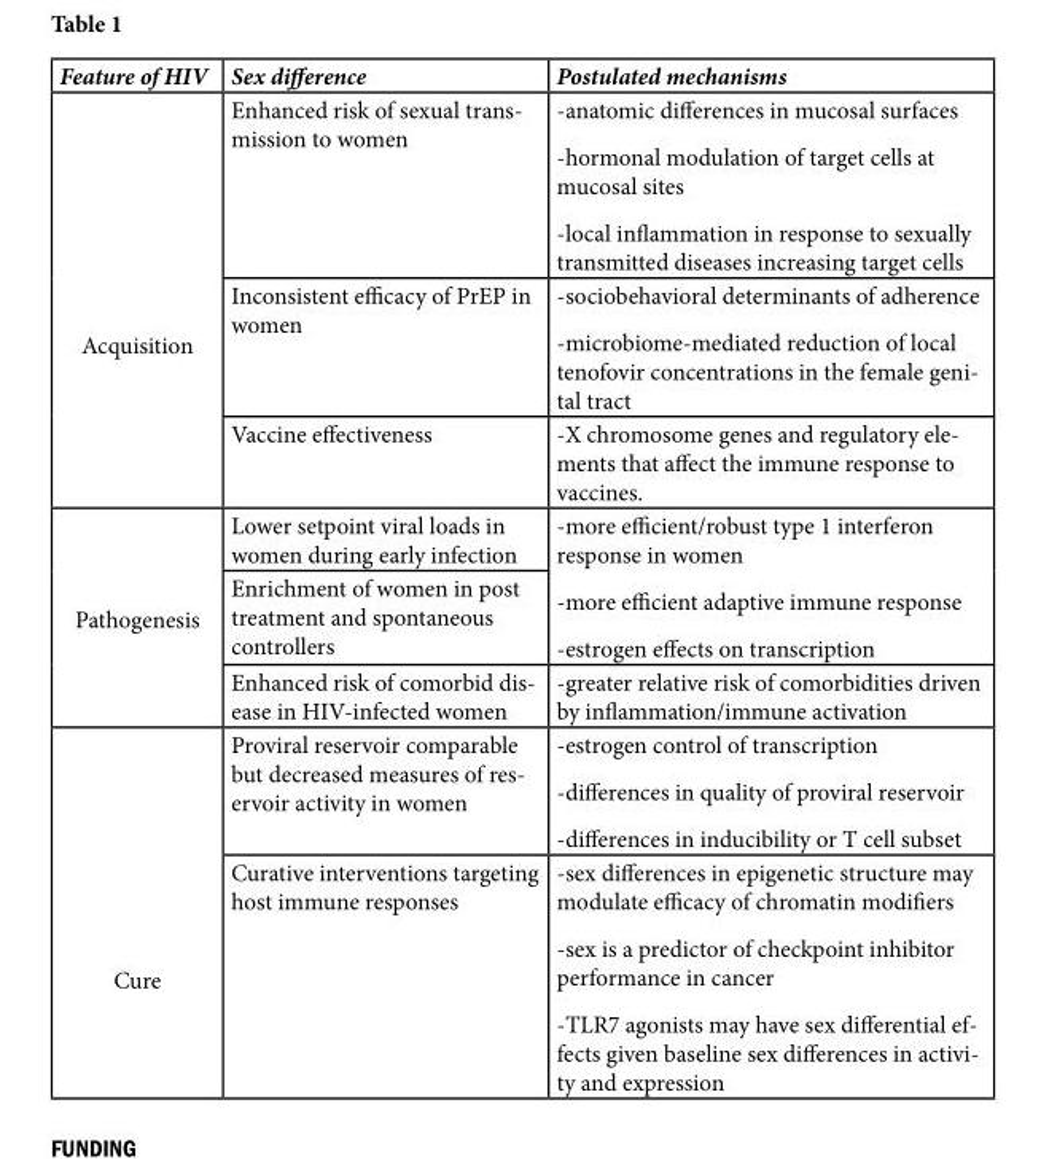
<table><thead><tr><td>Feature of HIV</td><td>Sex difference</td><td>Postulated mechanisms</td></tr></thead><tbody><tr><td rowspan="3">Acquisition</td><td>Enhanced risk of sexual trans- mission to women</td><td>-anatomic differences in mucosal surfaces -hormonal modulation of target cells at mucosal sites -local inflammation in response to sexually transmitted diseases increasing target cells</td></tr><tr><td>Inconsistent efficacy of PrEP in women</td><td>-sociobehavioral determinants of adherence -microbiome-mediated reduction of local tenofovir concentrations in the female geni- tal tract</td></tr><tr><td>Vaccine effectiveness</td><td>-X chromosome genes and regulatory ele- ments that affect the immune response to vaccines.</td></tr><tr><td rowspan="3">Pathogenesis</td><td>Lower setpoint viral loads in women during early infection</td><td rowspan="2">-more efficient/robust type 1 interferon response in women -more efficient adaptive immune response -estrogen effects on transcription</td></tr><tr><td>Enrichment of women in post treatment and spontaneous controllers</td></tr><tr><td>Enhanced risk of comorbid dis- ease in HIV-infected women</td><td>-greater relative risk of comorbidities driven by inflammation/immune activation</td></tr><tr><td rowspan="2">Cure</td><td>Proviral reservoir comparable but decreased measures of res- ervoir activity in women</td><td>-estrogen control of transcription -differences in quality of proviral reservoir -differences in inducibility or T cell subset</td></tr><tr><td>Curative interventions targeting host immune responses</td><td>-sex differences in epigenetic structure may modulate efficacy of chromatin modifiers -sex is a predictor of checkpoint inhibitor performance in cancer -TLR7 agonists may have sex differential ef- fects given baseline sex differences in activi- ty and expression</td></tr></tbody></table>